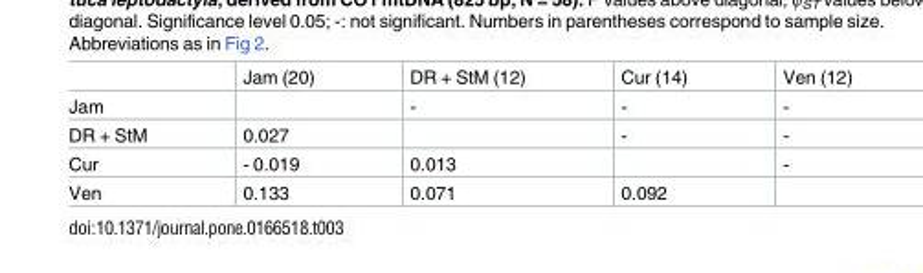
<table><thead><tr><td></td><td>Jam (20)</td><td>DR + StM (12)</td><td>Cur (14)</td><td>Ven (12)</td></tr></thead><tbody><tr><td>Jam</td><td></td><td>-</td><td>-</td><td>-</td></tr><tr><td>DR + StM</td><td>0.027</td><td></td><td>-</td><td>-</td></tr><tr><td>Cur</td><td>- 0.019</td><td>0.013</td><td></td><td>-</td></tr><tr><td>Ven</td><td>0.133</td><td>0.071</td><td>0.092</td><td></td></tr></tbody></table>